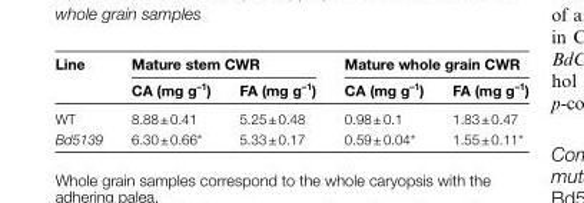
<table><thead><tr><td rowspan="2">Line</td><td colspan="2">Mature stem CWR</td><td colspan="2">Mature whole grain CWR</td></tr><tr><td>CA (mg g<sup>–1</sup>)</td><td>FA (mg g<sup>–1</sup>)</td><td>CA (mg g<sup>–1</sup>)</td><td>FA (mg g<sup>–1</sup>)</td></tr></thead><tbody><tr><td>WT</td><td>8.88 ± 0.41</td><td>5.25 ± 0.48</td><td>0.98 ± 0.1</td><td>1.83 ± 0.47</td></tr><tr><td>Bd5139</td><td>6.30 ± 0.66*</td><td>5.33 ± 0.17</td><td>0.59 ± 0.04*</td><td>1.55 ± 0.11*</td></tr></tbody></table>